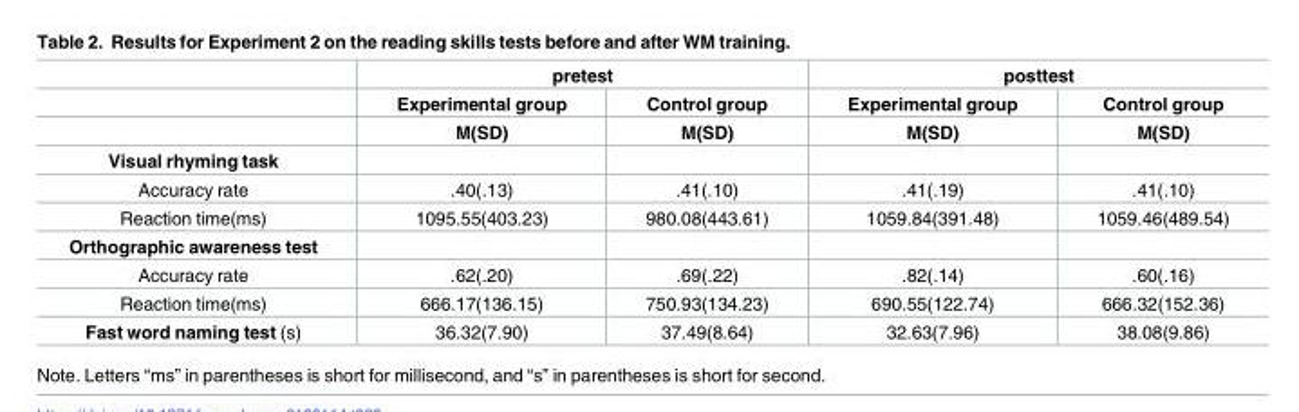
<table><thead><tr><td rowspan="3"></td><td colspan="2">pretest</td><td colspan="2">posttest</td></tr><tr><td rowspan="2">Experimental group M(SD)</td><td rowspan="2">Control group M(SD)</td><td rowspan="2">Experimental group M(SD)</td><td rowspan="2">Control group M(SD)</td></tr><tr></tr></thead><tbody><tr><td colspan="5">Visual rhyming task</td></tr><tr><td>Accuracy rate</td><td>.40(.13)</td><td>.41(.10)</td><td>.41(.19)</td><td>.41(.10)</td></tr><tr><td>Reaction time(ms)</td><td>1095.55(403.23)</td><td>980.08(443.61)</td><td>1059.84(391.48)</td><td>1059.46(489.54)</td></tr><tr><td colspan="5">Orthographic awareness test</td></tr><tr><td>Accuracy rate</td><td>.62(.20)</td><td>.69(.22)</td><td>.82(.14)</td><td>.60(.16)</td></tr><tr><td>Reaction time(ms)</td><td>666.17(136.15)</td><td>750.93(134.23)</td><td>690.55(122.74)</td><td>666.32(152.36)</td></tr><tr><td>Fast word naming test (s)</td><td>36.32(7.90)</td><td>37.49(8.64)</td><td>32.63(7.96)</td><td>38.08(9.86)</td></tr></tbody></table>